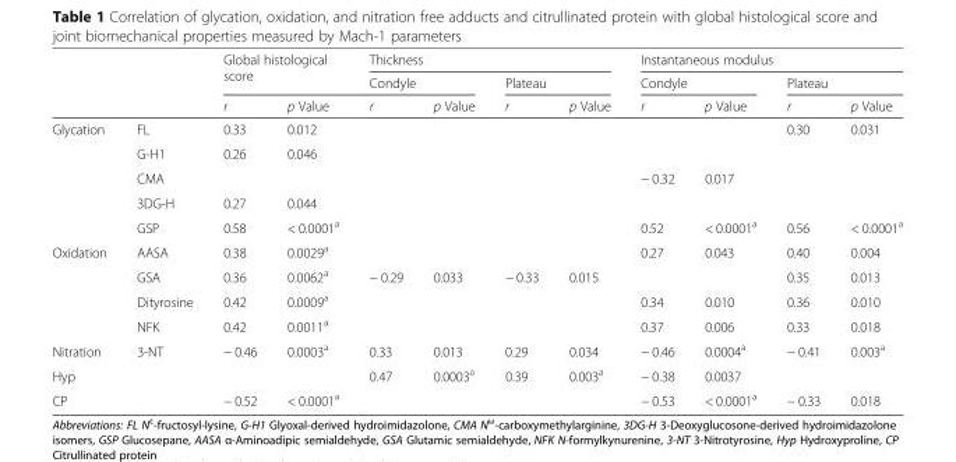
<table><thead><tr><td rowspan="3"></td><td rowspan="3"></td><td rowspan="2" colspan="2">Global histological score</td><td colspan="4">Thickness</td><td colspan="4">Instantaneous modulus</td></tr><tr><td colspan="2">Condyle</td><td colspan="2">Plateau</td><td colspan="2">Condyle</td><td colspan="2">Plateau</td></tr><tr><td>r</td><td>p Value</td><td>r</td><td>p Value</td><td>r</td><td>p Value</td><td>r</td><td>p Value</td><td>r</td><td>p Value</td></tr></thead><tbody><tr><td rowspan="5">Glycation</td><td>FL</td><td>0.33</td><td>0.012</td><td></td><td></td><td></td><td></td><td></td><td></td><td>0.30</td><td>0.031</td></tr><tr><td>G-H1</td><td>0.26</td><td>0.046</td><td></td><td></td><td></td><td></td><td></td><td></td><td></td><td></td></tr><tr><td>CMA</td><td></td><td></td><td></td><td></td><td></td><td></td><td>− 0.32</td><td>0.017</td><td></td><td></td></tr><tr><td>3DG-H</td><td>0.27</td><td>0.044</td><td></td><td></td><td></td><td></td><td></td><td></td><td></td><td></td></tr><tr><td>GSP</td><td>0.58</td><td>&lt; 0.0001<sup>a</sup></td><td></td><td></td><td></td><td></td><td>0.52</td><td>&lt; 0.0001<sup>a</sup></td><td>0.56</td><td>&lt; 0.0001<sup>a</sup></td></tr><tr><td rowspan="4">Oxidation</td><td>AASA</td><td>0.38</td><td>0.0029<sup>a</sup></td><td></td><td></td><td></td><td></td><td>0.27</td><td>0.043</td><td>0.40</td><td>0.004</td></tr><tr><td>GSA</td><td>0.36</td><td>0.0062<sup>a</sup></td><td>− 0.29</td><td>0.033</td><td>− 0.33</td><td>0.015</td><td></td><td></td><td>0.35</td><td>0.013</td></tr><tr><td>Dityrosine</td><td>0.42</td><td>0.0009<sup>a</sup></td><td></td><td></td><td></td><td></td><td>0.34</td><td>0.010</td><td>0.36</td><td>0.010</td></tr><tr><td>NFK</td><td>0.42</td><td>0.0011<sup>a</sup></td><td></td><td></td><td></td><td></td><td>0.37</td><td>0.006</td><td>0.33</td><td>0.018</td></tr><tr><td>Nitration</td><td>3-NT</td><td>− 0.46</td><td>0.0003<sup>a</sup></td><td>0.33</td><td>0.013</td><td>0.29</td><td>0.034</td><td>− 0.46</td><td>0.0004<sup>a</sup></td><td>− 0.41</td><td>0.003<sup>a</sup></td></tr><tr><td colspan="2">Hyp</td><td></td><td></td><td>0.47</td><td>0.0003<sup>a</sup></td><td>0.39</td><td>0.003<sup>a</sup></td><td>− 0.38</td><td>0.0037</td><td></td><td></td></tr><tr><td colspan="2">CP</td><td>− 0.52</td><td>&lt; 0.0001<sup>a</sup></td><td></td><td></td><td></td><td></td><td>− 0.53</td><td>&lt; 0.0001<sup>a</sup></td><td>− 0.33</td><td>0.018</td></tr></tbody></table>